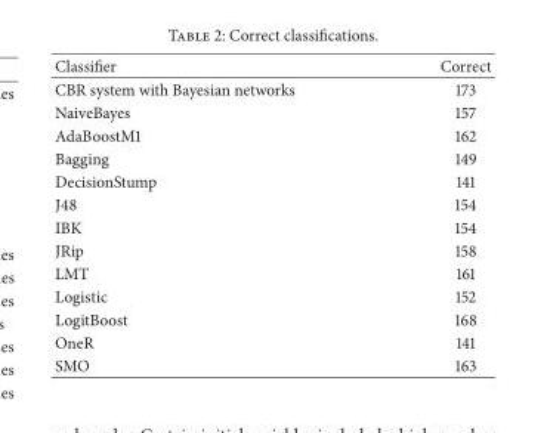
<table><thead><tr><td>Classifier</td><td>Correct</td></tr></thead><tbody><tr><td>CBR system with Bayesian networks</td><td>173</td></tr><tr><td>NaiveBayes</td><td>157</td></tr><tr><td>AdaBoostM1</td><td>162</td></tr><tr><td>Bagging</td><td>149</td></tr><tr><td>DecisionStump</td><td>141</td></tr><tr><td>J48</td><td>154</td></tr><tr><td>IBK</td><td>154</td></tr><tr><td>JRip</td><td>158</td></tr><tr><td>LMT</td><td>161</td></tr><tr><td>Logistic</td><td>152</td></tr><tr><td>LogitBoost</td><td>168</td></tr><tr><td>OneR</td><td>141</td></tr><tr><td>SMO</td><td>163</td></tr></tbody></table>